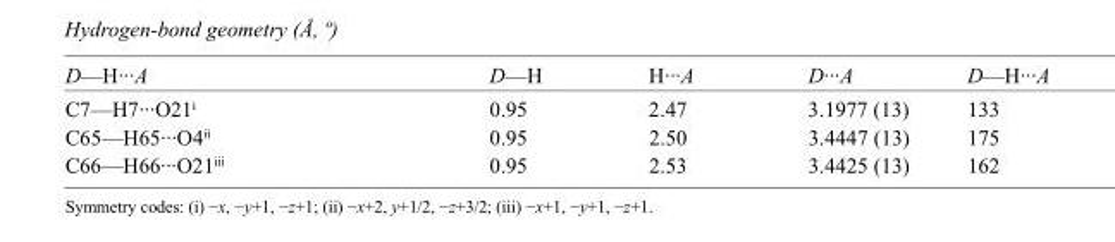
<table><tbody><tr><td>D—H···A</td><td>D—H</td><td>H···A</td><td>D···A</td><td>D—H···A</td></tr><tr><td>C7—H7···O21<sup>i</sup></td><td>0.95</td><td>2.47</td><td>3.1977 (13)</td><td>133</td></tr><tr><td>C65—H65···O4<sup>ii</sup></td><td>0.95</td><td>2.50</td><td>3.4447 (13)</td><td>175</td></tr><tr><td>C66—H66···O21<sup>iii</sup></td><td>0.95</td><td>2.53</td><td>3.4425 (13)</td><td>162</td></tr></tbody></table>